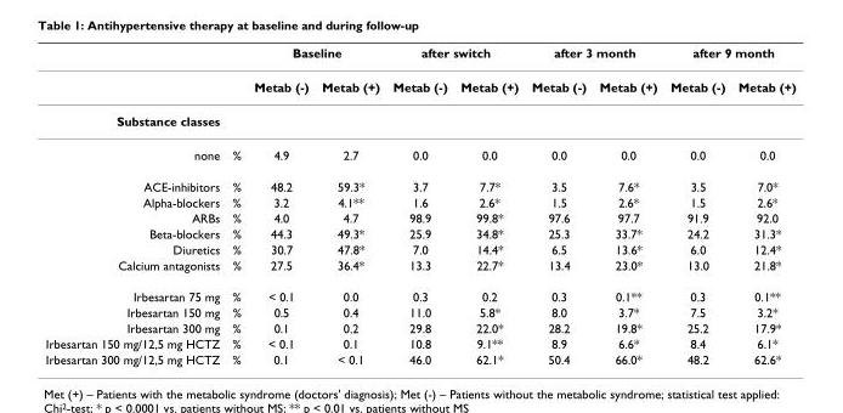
<table><thead><tr><td rowspan="2"></td><td rowspan="2"></td><td colspan="2">Baseline</td><td colspan="2">after switch</td><td colspan="2">after 3 month</td><td colspan="2">after 9 month</td></tr><tr><td>Metab (-)</td><td>Metab (+)</td><td>Metab (-)</td><td>Metab (+)</td><td>Metab (-)</td><td>Metab (+)</td><td>Metab (-)</td><td>Metab (+)</td></tr></thead><tbody><tr><td colspan="10">Substance classes</td></tr><tr><td>none</td><td>%</td><td>4.9</td><td>2.7</td><td>0.0</td><td>0.0</td><td>0.0</td><td>0.0</td><td>0.0</td><td>0.0</td></tr><tr><td>ACE-inhibitors</td><td>%</td><td>48.2</td><td>59.3*</td><td>3.7</td><td>7.7*</td><td>3.5</td><td>7.6*</td><td>3.5</td><td>7.0*</td></tr><tr><td>Alpha-blockers</td><td>%</td><td>3.2</td><td>4.1**</td><td>1.6</td><td>2.6*</td><td>1.5</td><td>2.6*</td><td>1.5</td><td>2.6*</td></tr><tr><td>ARBs</td><td>%</td><td>4.0</td><td>4.7</td><td>98.9</td><td>99.8*</td><td>97.6</td><td>97.7</td><td>91.9</td><td>92.0</td></tr><tr><td>Beta-blockers</td><td>%</td><td>44.3</td><td>49.3*</td><td>25.9</td><td>34.8*</td><td>25.3</td><td>33.7*</td><td>24.2</td><td>31.3*</td></tr><tr><td>Diuretics</td><td>%</td><td>30.7</td><td>47.8*</td><td>7.0</td><td>14.4*</td><td>6.5</td><td>13.6*</td><td>6.0</td><td>12.4*</td></tr><tr><td>Calcium antagonists</td><td>%</td><td>27.5</td><td>36.4*</td><td>13.3</td><td>22.7*</td><td>13.4</td><td>23.0*</td><td>13.0</td><td>21.8*</td></tr><tr><td>Irbesartan 75 mg</td><td>%</td><td>&lt; 0.1</td><td>0.0</td><td>0.3</td><td>0.2</td><td>0.3</td><td>0.1**</td><td>0.3</td><td>0.1**</td></tr><tr><td>Irbesartan 150 mg</td><td>%</td><td>0.5</td><td>0.4</td><td>11.0</td><td>5.8*</td><td>8.0</td><td>3.7*</td><td>7.5</td><td>3.2*</td></tr><tr><td>Irbesartan 300 mg</td><td>%</td><td>0.1</td><td>0.2</td><td>29.8</td><td>22.0*</td><td>28.2</td><td>19.8*</td><td>25.2</td><td>17.9*</td></tr><tr><td>Irbesartan 150 mg/12,5 mg HCTZ</td><td>%</td><td>&lt; 0.1</td><td>0.1</td><td>10.8</td><td>9.1**</td><td>8.9</td><td>6.6*</td><td>8.4</td><td>6.1*</td></tr><tr><td>Irbesartan 300 mg/12,5 mg HCTZ</td><td>%</td><td>0.1</td><td>&lt; 0.1</td><td>46.0</td><td>62.1*</td><td>50.4</td><td>66.0*</td><td>48.2</td><td>62.6*</td></tr></tbody></table>